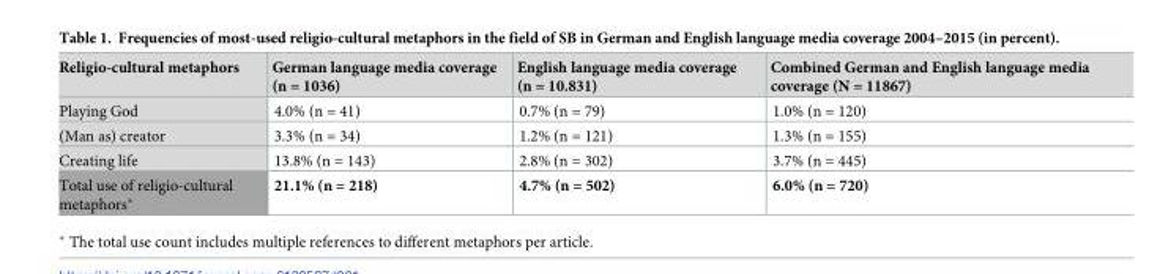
<table><thead><tr><td>Religio-cultural metaphors</td><td>German language media coverage (n = 1036)</td><td>English language media coverage (n = 10.831)</td><td>Combined German and English language media coverage (N = 11867)</td></tr></thead><tbody><tr><td>Playing God</td><td>4.0% (n = 41)</td><td>0.7% (n = 79)</td><td>1.0% (n = 120)</td></tr><tr><td>(Man as) creator</td><td>3.3% (n = 34)</td><td>1.2% (n = 121)</td><td>1.3% (n = 155)</td></tr><tr><td>Creating life</td><td>13.8% (n = 143)</td><td>2.8% (n = 302)</td><td>3.7% (n = 445)</td></tr><tr><td>Total use of religio-cultural metaphors*</td><td>21.1% (n = 218)</td><td>4.7% (n = 502)</td><td>6.0% (n = 720)</td></tr></tbody></table>